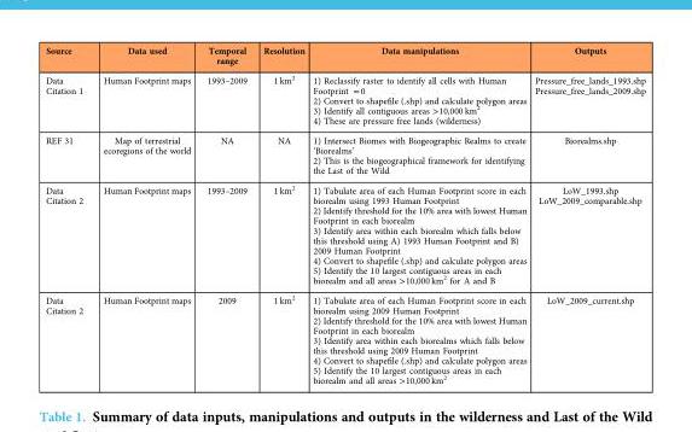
<table><thead><tr><td>Source</td><td>Data used</td><td>Temporal range</td><td>Resolution</td><td>Data manipulations</td><td>Outputs</td></tr></thead><tbody><tr><td>Data Citation 1</td><td>Human Footprint maps</td><td>1993–2009</td><td>1 km<sup>2</sup></td><td>1) Reclassify raster to identify all cells with Human Footprint = 0 2) Convert to shapefile (.shp) and calculate polygon areas 3) Identify all contiguous areas &gt;10,000 km<sup>2</sup> 4) These are pressure free lands (wilderness)</td><td>Pressure_free_lands_1993.shp Pressure_free_lands_2009.shp</td></tr><tr><td>REF 31</td><td>Map of terrestrial ecoregions of the world</td><td>NA</td><td>NA</td><td>1) Intersect Biomes with Biogeographic Realms to create ‘Biorealms’ 2) This is the biogeographical framework for identifying the Last of the Wild</td><td>Biorealms.shp</td></tr><tr><td>Data Citation 2</td><td>Human Footprint maps</td><td>1993–2009</td><td>1 km<sup>2</sup></td><td>1) Tabulate area of each Human Footprint score in each biorealm using 1993 Human Footprint 2) Identify threshold for the 10% area with lowest Human Footprint in each biorealm 3) Identify area within each biorealm which falls below this threshold using A) 1993 Human Footprint and B) 2009 Human Footprint 4) Convert to shapefile (.shp) and calculate polygon areas 5) Identify the 10 largest contiguous areas in each biorealm and all areas &gt;10,000 km<sup>2</sup> for A and B</td><td>LoW_1993.shp LoW_2009_comparable.shp</td></tr><tr><td>Data Citation 2</td><td>Human Footprint maps</td><td>2009</td><td>1 km<sup>2</sup></td><td>1) Tabulate area of each Human Footprint score in each biorealm using 2009 Human Footprint 2) Identify threshold for the 10% area with lowest Human Footprint in each biorealm 3) Identify area within each biorealms which falls below this threshold using 2009 Human Footprint 4) Convert to shapefile (.shp) and calculate polygon areas 5) Identify the 10 largest contiguous areas in each biorealm and all areas &gt;10,000 km<sup>2</sup></td><td>LoW_2009_current.shp</td></tr></tbody></table>